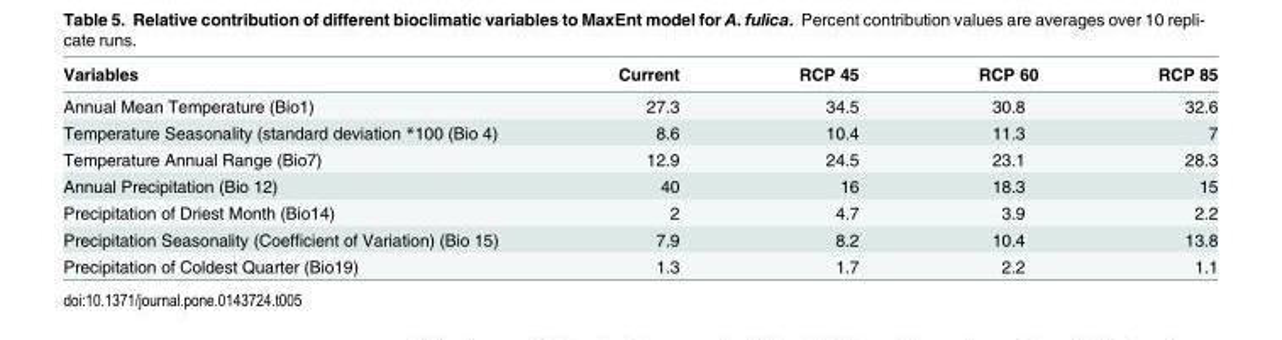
<table><thead><tr><td>Variables</td><td>Current</td><td>RCP 45</td><td>RCP 60</td><td>RCP 85</td></tr></thead><tbody><tr><td>Annual Mean Temperature (Bio1)</td><td>27.3</td><td>34.5</td><td>30.8</td><td>32.6</td></tr><tr><td>Temperature Seasonality (standard deviation *100 (Bio 4)</td><td>8.6</td><td>10.4</td><td>11.3</td><td>7</td></tr><tr><td>Temperature Annual Range (Bio7)</td><td>12.9</td><td>24.5</td><td>23.1</td><td>28.3</td></tr><tr><td>Annual Precipitation (Bio 12)</td><td>40</td><td>16</td><td>18.3</td><td>15</td></tr><tr><td>Precipitation of Driest Month (Bio14)</td><td>2</td><td>4.7</td><td>3.9</td><td>2.2</td></tr><tr><td>Precipitation Seasonality (Coefficient of Variation) (Bio 15)</td><td>7.9</td><td>8.2</td><td>10.4</td><td>13.8</td></tr><tr><td>Precipitation of Coldest Quarter (Bio19)</td><td>1.3</td><td>1.7</td><td>2.2</td><td>1.1</td></tr></tbody></table>